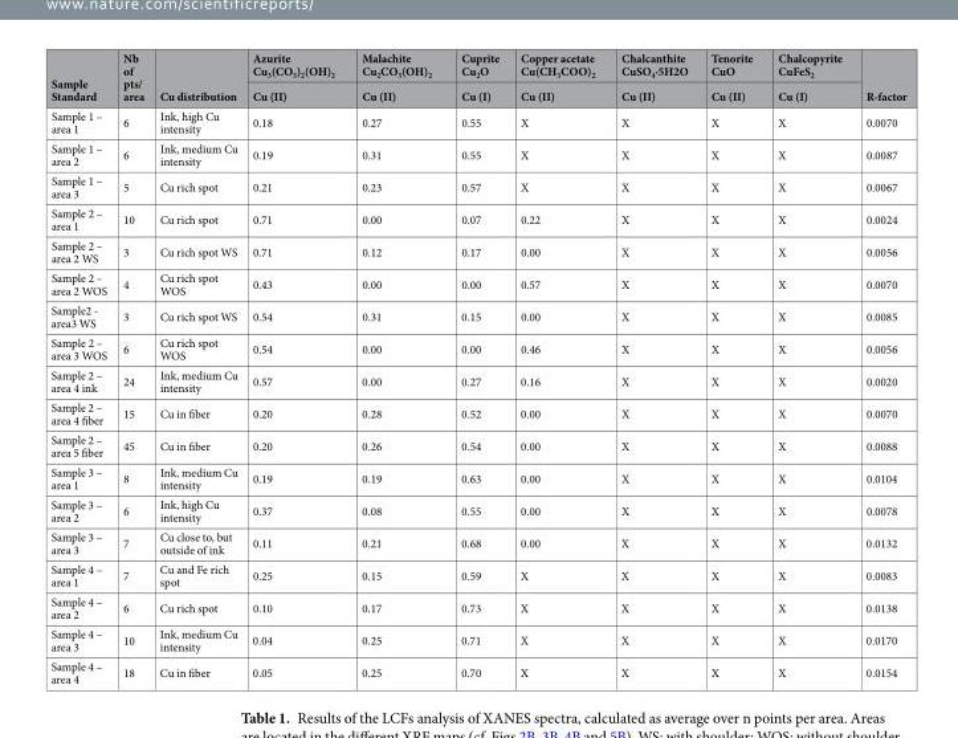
<table><thead><tr><td rowspan="2">Sample Standard</td><td rowspan="2">Nb of pts/ area</td><td rowspan="2">Cu distribution</td><td rowspan="2">Azurite Cu<sub>3</sub>(CO<sub>3</sub>)<sub>2</sub>(OH)<sub>2</sub> Cu (II)</td><td rowspan="2">Malachite Cu<sub>2</sub>CO<sub>3</sub>(OH)<sub>2</sub> Cu (II)</td><td rowspan="2">Cuprite Cu<sub>2</sub>O Cu (I)</td><td rowspan="2">Copper acetate Cu(CH<sub>3</sub>COO)<sub>2</sub> Cu (II)</td><td rowspan="2">Chalcanthite CuSO<sub>4</sub>·5H2O Cu (II)</td><td rowspan="2">Tenorite CuO Cu (II)</td><td rowspan="2">Chalcopyrite CuFeS<sub>2</sub> Cu (I)</td><td rowspan="2">R-factor</td></tr><tr></tr></thead><tbody><tr><td>Sample 1 – area 1</td><td>6</td><td>Ink, high Cu intensity</td><td>0.18</td><td>0.27</td><td>0.55</td><td>X</td><td>X</td><td>X</td><td>X</td><td>0.0070</td></tr><tr><td>Sample 1 – area 2</td><td>6</td><td>Ink, medium Cu intensity</td><td>0.19</td><td>0.31</td><td>0.55</td><td>X</td><td>X</td><td>X</td><td>X</td><td>0.0087</td></tr><tr><td>Sample 1 – area 3</td><td>5</td><td>Cu rich spot</td><td>0.21</td><td>0.23</td><td>0.57</td><td>X</td><td>X</td><td>X</td><td>X</td><td>0.0067</td></tr><tr><td>Sample 2 – area 1</td><td>10</td><td>Cu rich spot</td><td>0.71</td><td>0.00</td><td>0.07</td><td>0.22</td><td>X</td><td>X</td><td>X</td><td>0.0024</td></tr><tr><td>Sample 2 – area 2 WS</td><td>3</td><td>Cu rich spot WS</td><td>0.71</td><td>0.12</td><td>0.17</td><td>0.00</td><td>X</td><td>X</td><td>X</td><td>0.0056</td></tr><tr><td>Sample 2 – area 2 WOS</td><td>4</td><td>Cu rich spot WOS</td><td>0.43</td><td>0.00</td><td>0.00</td><td>0.57</td><td>X</td><td>X</td><td>X</td><td>0.0070</td></tr><tr><td>Sample2 - area3 WS</td><td>3</td><td>Cu rich spot WS</td><td>0.54</td><td>0.31</td><td>0.15</td><td>0.00</td><td>X</td><td>X</td><td>X</td><td>0.0085</td></tr><tr><td>Sample 2 – area 3 WOS</td><td>6</td><td>Cu rich spot WOS</td><td>0.54</td><td>0.00</td><td>0.00</td><td>0.46</td><td>X</td><td>X</td><td>X</td><td>0.0056</td></tr><tr><td>Sample 2 – area 4 ink</td><td>24</td><td>Ink, medium Cu intensity</td><td>0.57</td><td>0.00</td><td>0.27</td><td>0.16</td><td>X</td><td>X</td><td>X</td><td>0.0020</td></tr><tr><td>Sample 2 – area 4 fiber</td><td>15</td><td>Cu in fiber</td><td>0.20</td><td>0.28</td><td>0.52</td><td>0.00</td><td>X</td><td>X</td><td>X</td><td>0.0070</td></tr><tr><td>Sample 2 – area 5 fiber</td><td>45</td><td>Cu in fiber</td><td>0.20</td><td>0.26</td><td>0.54</td><td>0.00</td><td>X</td><td>X</td><td>X</td><td>0.0088</td></tr><tr><td>Sample 3 – area 1</td><td>8</td><td>Ink, medium Cu intensity</td><td>0.19</td><td>0.19</td><td>0.63</td><td>0.00</td><td>X</td><td>X</td><td>X</td><td>0.0104</td></tr><tr><td>Sample 3 – area 2</td><td>6</td><td>Ink, high Cu intensity</td><td>0.37</td><td>0.08</td><td>0.55</td><td>0.00</td><td>X</td><td>X</td><td>X</td><td>0.0078</td></tr><tr><td>Sample 3 – area 3</td><td>7</td><td>Cu close to, but outside of ink</td><td>0.11</td><td>0.21</td><td>0.68</td><td>0.00</td><td>X</td><td>X</td><td>X</td><td>0.0132</td></tr><tr><td>Sample 4 – area 1</td><td>7</td><td>Cu and Fe rich spot</td><td>0.25</td><td>0.15</td><td>0.59</td><td>X</td><td>X</td><td>X</td><td>X</td><td>0.0083</td></tr><tr><td>Sample 4 – area 2</td><td>6</td><td>Cu rich spot</td><td>0.10</td><td>0.17</td><td>0.73</td><td>X</td><td>X</td><td>X</td><td>X</td><td>0.0138</td></tr><tr><td>Sample 4 – area 3</td><td>10</td><td>Ink, medium Cu intensity</td><td>0.04</td><td>0.25</td><td>0.71</td><td>X</td><td>X</td><td>X</td><td>X</td><td>0.0170</td></tr><tr><td>Sample 4 – area 4</td><td>18</td><td>Cu in fiber</td><td>0.05</td><td>0.25</td><td>0.70</td><td>X</td><td>X</td><td>X</td><td>X</td><td>0.0154</td></tr></tbody></table>